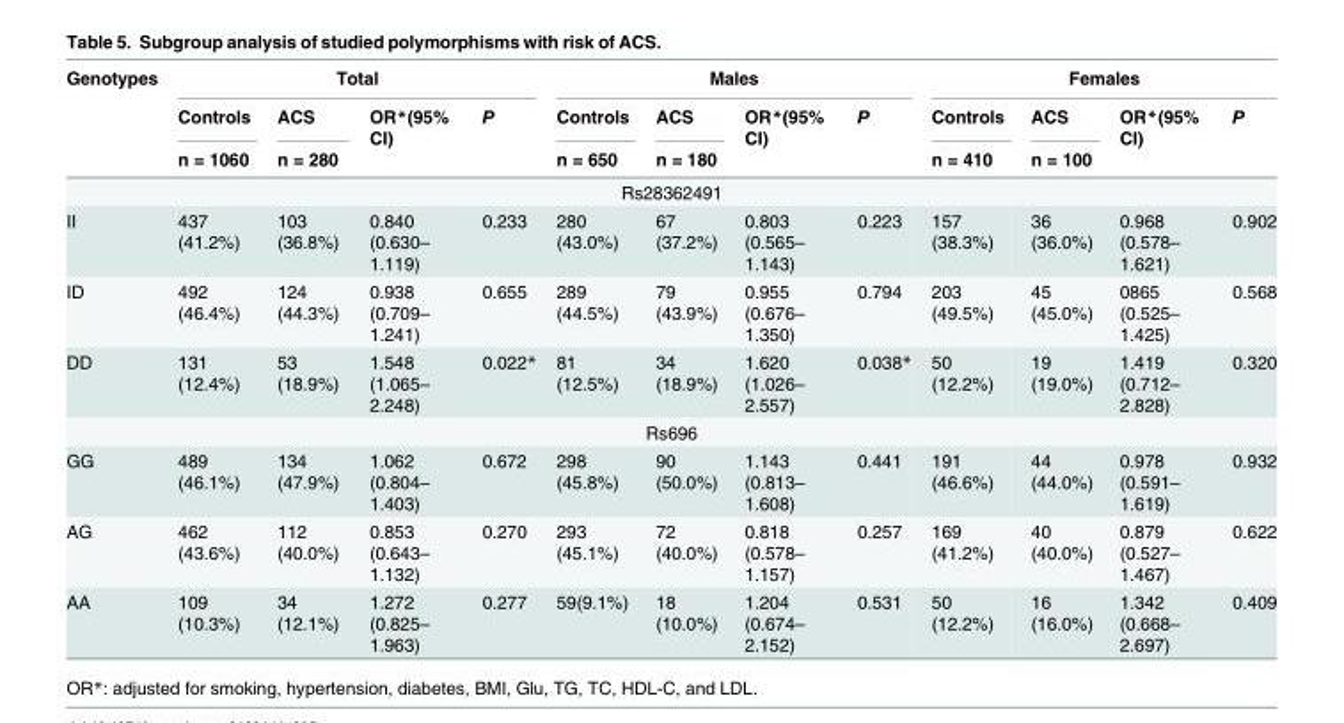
<table><thead><tr><td rowspan="3">Genotypes</td><td colspan="4">Total</td><td colspan="4">Males</td><td colspan="4">Females</td></tr><tr><td rowspan="2">Controls n = 1060</td><td rowspan="2">ACS n = 280</td><td rowspan="2">OR*(95% CI)</td><td rowspan="2">P</td><td rowspan="2">Controls n = 650</td><td rowspan="2">ACS n = 180</td><td rowspan="2">OR*(95% CI)</td><td rowspan="2">P</td><td rowspan="2">Controls n = 410</td><td rowspan="2">ACS n = 100</td><td rowspan="2">OR*(95% CI)</td><td rowspan="2">P</td></tr><tr></tr></thead><tbody><tr><td colspan="13">Rs28362491</td></tr><tr><td>II</td><td>437 (41.2%)</td><td>103 (36.8%)</td><td>0.840 (0.630– 1.119)</td><td>0.233</td><td>280 (43.0%)</td><td>67 (37.2%)</td><td>0.803 (0.565– 1.143)</td><td>0.223</td><td>157 (38.3%)</td><td>36 (36.0%)</td><td>0.968 (0.578– 1.621)</td><td>0.902</td></tr><tr><td>ID</td><td>492 (46.4%)</td><td>124 (44.3%)</td><td>0.938 (0.709– 1.241)</td><td>0.655</td><td>289 (44.5%)</td><td>79 (43.9%)</td><td>0.955 (0.676– 1.350)</td><td>0.794</td><td>203 (49.5%)</td><td>45 (45.0%)</td><td>0865 (0.525– 1.425)</td><td>0.568</td></tr><tr><td>DD</td><td>131 (12.4%)</td><td>53 (18.9%)</td><td>1.548 (1.065– 2.248)</td><td>0.022*</td><td>81 (12.5%)</td><td>34 (18.9%)</td><td>1.620 (1.026– 2.557)</td><td>0.038*</td><td>50 (12.2%)</td><td>19 (19.0%)</td><td>1.419 (0.712– 2.828)</td><td>0.320</td></tr><tr><td colspan="13">Rs696</td></tr><tr><td>GG</td><td>489 (46.1%)</td><td>134 (47.9%)</td><td>1.062 (0.804– 1.403)</td><td>0.672</td><td>298 (45.8%)</td><td>90 (50.0%)</td><td>1.143 (0.813– 1.608)</td><td>0.441</td><td>191 (46.6%)</td><td>44 (44.0%)</td><td>0.978 (0.591– 1.619)</td><td>0.932</td></tr><tr><td>AG</td><td>462 (43.6%)</td><td>112 (40.0%)</td><td>0.853 (0.643– 1.132)</td><td>0.270</td><td>293 (45.1%)</td><td>72 (40.0%)</td><td>0.818 (0.578– 1.157)</td><td>0.257</td><td>169 (41.2%)</td><td>40 (40.0%)</td><td>0.879 (0.527– 1.467)</td><td>0.622</td></tr><tr><td>AA</td><td>109 (10.3%)</td><td>34 (12.1%)</td><td>1.272 (0.825– 1.963)</td><td>0.277</td><td>59(9.1%)</td><td>18 (10.0%)</td><td>1.204 (0.674– 2.152)</td><td>0.531</td><td>50 (12.2%)</td><td>16 (16.0%)</td><td>1.342 (0.668– 2.697)</td><td>0.409</td></tr></tbody></table>